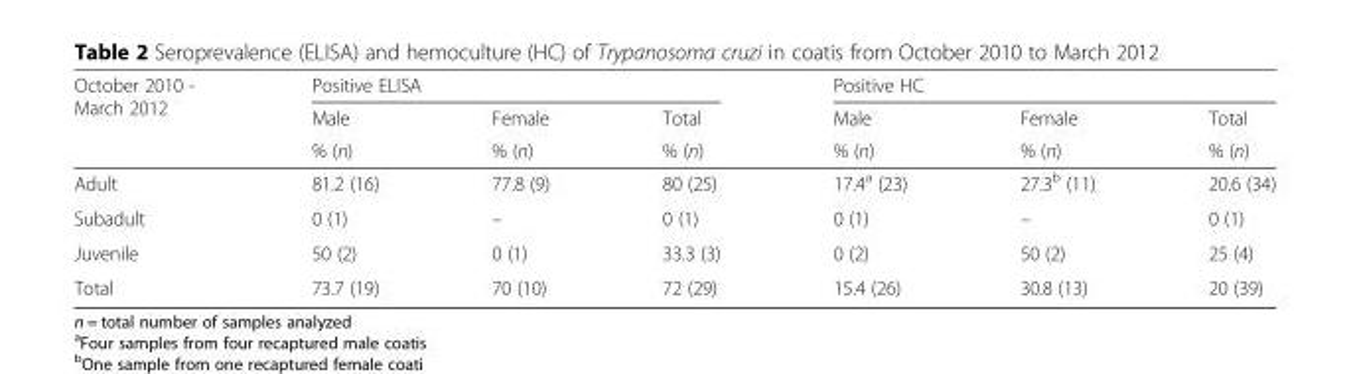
<table><thead><tr><td rowspan="3">October 2010 - March 2012</td><td colspan="3">Positive ELISA</td><td colspan="3">Positive HC</td></tr><tr><td rowspan="2">Male % (n)</td><td rowspan="2">Female % (n)</td><td rowspan="2">Total % (n)</td><td rowspan="2">Male % (n)</td><td rowspan="2">Female % (n)</td><td rowspan="2">Total % (n)</td></tr><tr></tr></thead><tbody><tr><td>Adult</td><td>81.2 (16)</td><td>77.8 (9)</td><td>80 (25)</td><td>17.4<sup>a</sup> (23)</td><td>27.3<sup>b</sup> (11)</td><td>20.6 (34)</td></tr><tr><td>Subadult</td><td>0 (1)</td><td>–</td><td>0 (1)</td><td>0 (1)</td><td>–</td><td>0 (1)</td></tr><tr><td>Juvenile</td><td>50 (2)</td><td>0 (1)</td><td>33.3 (3)</td><td>0 (2)</td><td>50 (2)</td><td>25 (4)</td></tr><tr><td>Total</td><td>73.7 (19)</td><td>70 (10)</td><td>72 (29)</td><td>15.4 (26)</td><td>30.8 (13)</td><td>20 (39)</td></tr></tbody></table>